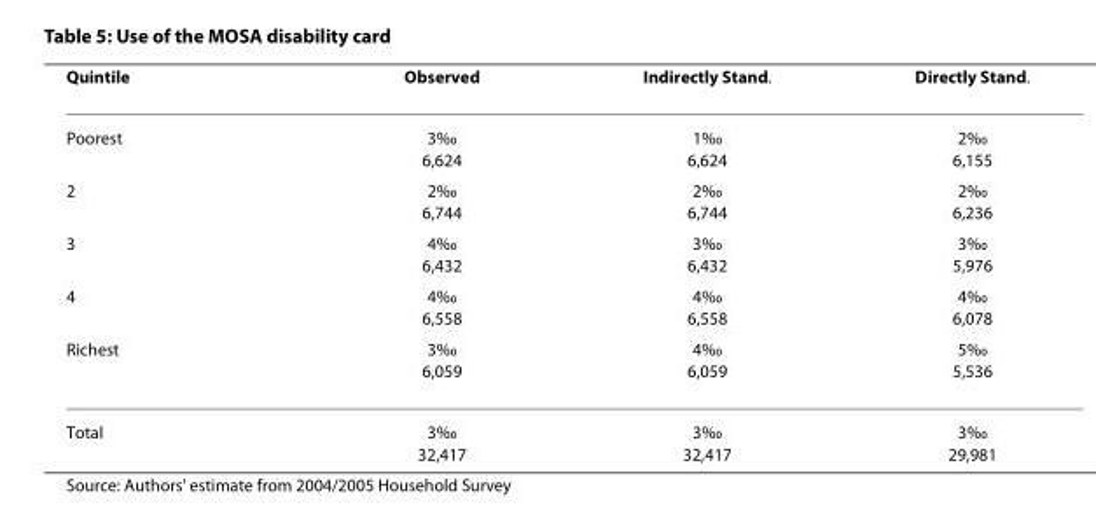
<table><thead><tr><td>Quintile</td><td>Observed</td><td>Indirectly Stand.</td><td>Directly Stand.</td></tr></thead><tbody><tr><td>Poorest</td><td>3‰ 6,624</td><td>1‰ 6,624</td><td>2‰ 6,155</td></tr><tr><td>2</td><td>2‰ 6,744</td><td>2‰ 6,744</td><td>2‰ 6,236</td></tr><tr><td>3</td><td>4‰ 6,432</td><td>3‰ 6,432</td><td>3‰ 5,976</td></tr><tr><td>4</td><td>4‰ 6,558</td><td>4‰ 6,558</td><td>4‰ 6,078</td></tr><tr><td>Richest</td><td>3‰ 6,059</td><td>4‰ 6,059</td><td>5‰ 5,536</td></tr><tr><td>Total</td><td>3‰ 32,417</td><td>3‰ 32,417</td><td>3‰ 29,981</td></tr></tbody></table>